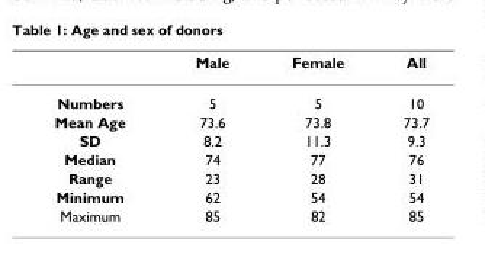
<table><thead><tr><td></td><td>Male</td><td>Female</td><td>All</td></tr></thead><tbody><tr><td>Numbers</td><td>5</td><td>5</td><td>10</td></tr><tr><td>Mean Age</td><td>73.6</td><td>73.8</td><td>73.7</td></tr><tr><td>SD</td><td>8.2</td><td>11.3</td><td>9.3</td></tr><tr><td>Median</td><td>74</td><td>77</td><td>76</td></tr><tr><td>Range</td><td>23</td><td>28</td><td>31</td></tr><tr><td>Minimum</td><td>62</td><td>54</td><td>54</td></tr><tr><td>Maximum</td><td>85</td><td>82</td><td>85</td></tr></tbody></table>